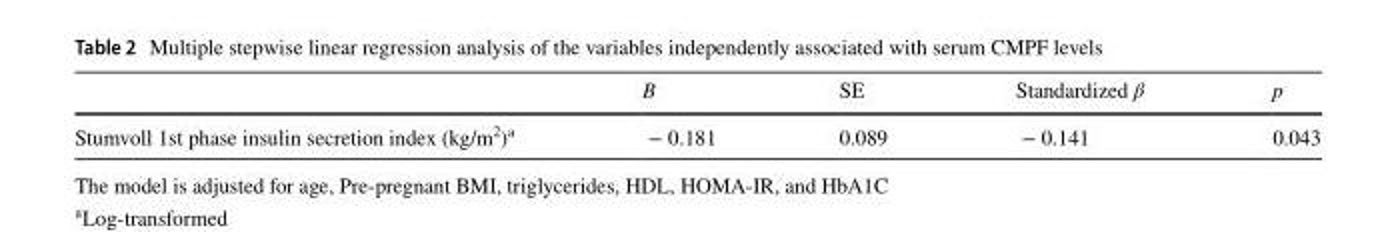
<table><thead><tr><td></td><td>Β</td><td>SE</td><td>Standardized β</td><td>p</td></tr></thead><tbody><tr><td>Stumvoll 1st phase insulin secretion index (kg/m<sup>2</sup>)<sup>a</sup></td><td>− 0.181</td><td>0.089</td><td>− 0.141</td><td>0.043</td></tr></tbody></table>